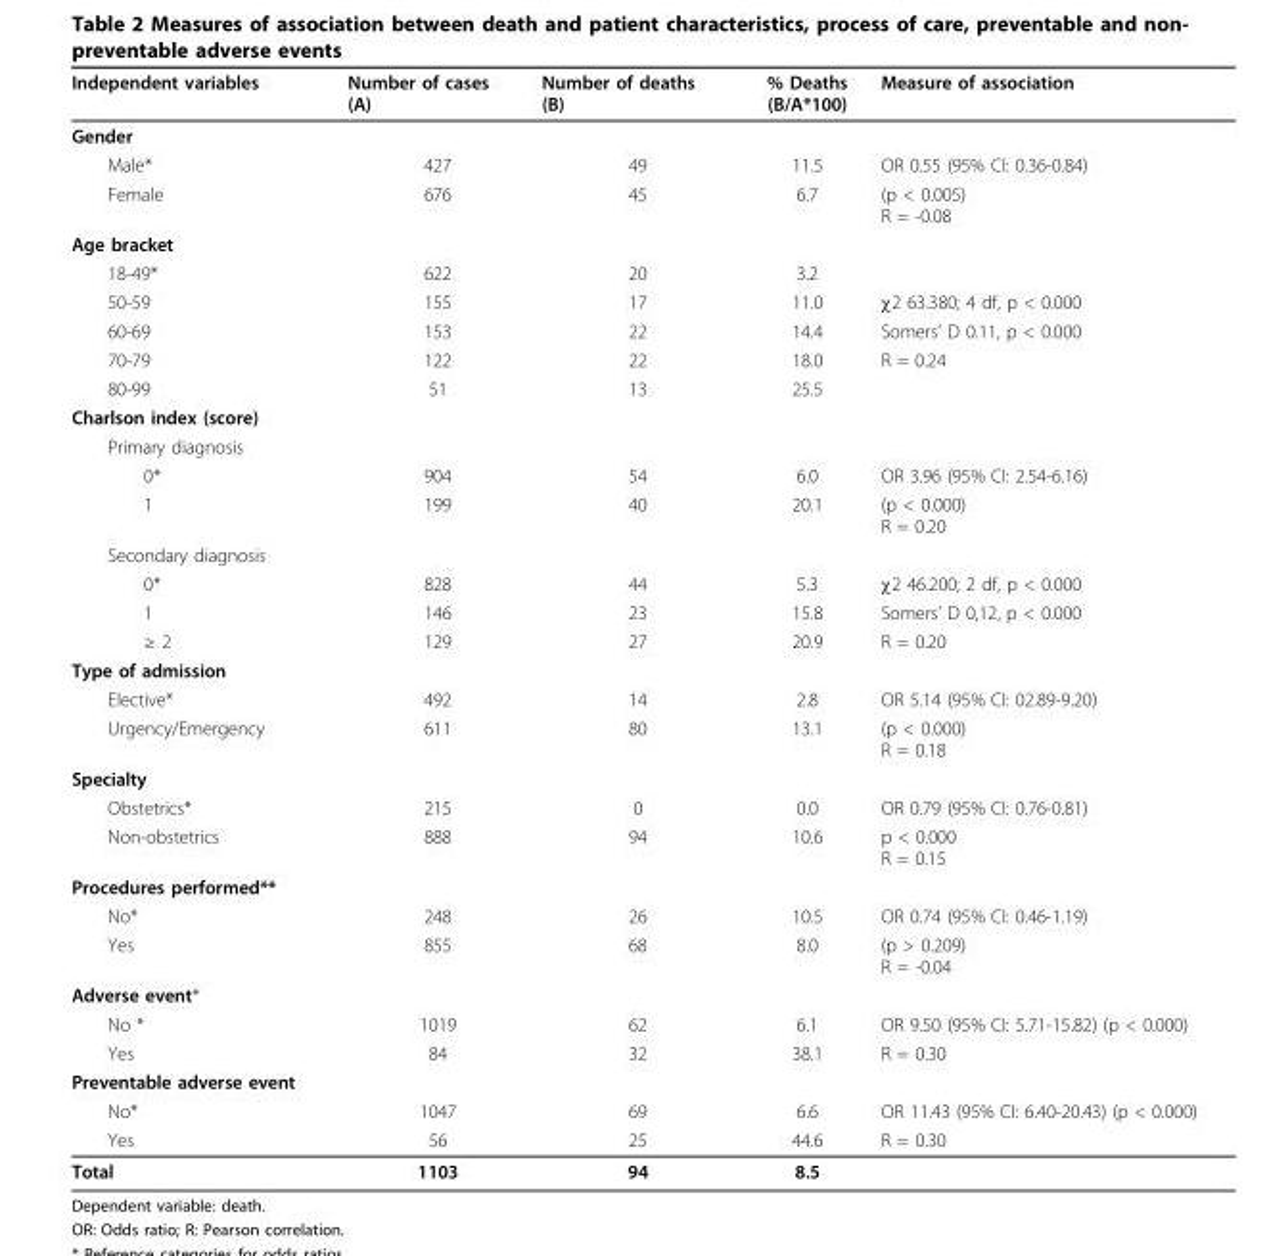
<table><thead><tr><td>Independent variables</td><td>Number of cases (A)</td><td>Number of deaths (B)</td><td>% Deaths (B/A*100)</td><td>Measure of association</td></tr></thead><tbody><tr><td colspan="5">Gender</td></tr><tr><td>Male*</td><td>427</td><td>49</td><td>11.5</td><td>OR 0.55 (95% CI: 0.36-0.84)</td></tr><tr><td>Female</td><td>676</td><td>45</td><td>6.7</td><td>(p &lt; 0.005) R = -0.08</td></tr><tr><td colspan="5">Age bracket</td></tr><tr><td>18-49*</td><td>622</td><td>20</td><td>3.2</td><td></td></tr><tr><td>50-59</td><td>155</td><td>17</td><td>11.0</td><td>χ2 63.380; 4 df, p &lt; 0.000</td></tr><tr><td>60-69</td><td>153</td><td>22</td><td>14.4</td><td>Somers’ D 0.11, p &lt; 0.000</td></tr><tr><td>70-79</td><td>122</td><td>22</td><td>18.0</td><td>R = 0.24</td></tr><tr><td>80-99</td><td>51</td><td>13</td><td>25.5</td><td></td></tr><tr><td colspan="5">Charlson index (score)</td></tr><tr><td colspan="5">Primary diagnosis</td></tr><tr><td>0*</td><td>904</td><td>54</td><td>6.0</td><td>OR 3.96 (95% CI: 2.54-6.16)</td></tr><tr><td>1</td><td>199</td><td>40</td><td>20.1</td><td>(p &lt; 0.000) R = 0.20</td></tr><tr><td colspan="5">Secondary diagnosis</td></tr><tr><td>0*</td><td>828</td><td>44</td><td>5.3</td><td>χ2 46.200; 2 df, p &lt; 0.000</td></tr><tr><td>1</td><td>146</td><td>23</td><td>15.8</td><td>Somers’ D 0,12, p &lt; 0.000</td></tr><tr><td>≥ 2</td><td>129</td><td>27</td><td>20.9</td><td>R = 0.20</td></tr><tr><td colspan="5">Type of admission</td></tr><tr><td>Elective*</td><td>492</td><td>14</td><td>2.8</td><td>OR 5.14 (95% CI: 02.89-9.20)</td></tr><tr><td>Urgency/Emergency</td><td>611</td><td>80</td><td>13.1</td><td>(p &lt; 0.000) R = 0.18</td></tr><tr><td colspan="5">Specialty</td></tr><tr><td>Obstetrics*</td><td>215</td><td>0</td><td>0.0</td><td>OR 0.79 (95% CI: 0.76-0.81)</td></tr><tr><td>Non-obstetrics</td><td>888</td><td>94</td><td>10.6</td><td>p &lt; 0.000 R = 0.15</td></tr><tr><td colspan="5">Procedures performed**</td></tr><tr><td>No*</td><td>248</td><td>26</td><td>10.5</td><td>OR 0.74 (95% CI: 0.46-1.19)</td></tr><tr><td>Yes</td><td>855</td><td>68</td><td>8.0</td><td>(p &gt; 0.209) R = -0.04</td></tr><tr><td colspan="5">Adverse event*</td></tr><tr><td>No *</td><td>1019</td><td>62</td><td>6.1</td><td>OR 9.50 (95% CI: 5.71-15.82) (p &lt; 0.000)</td></tr><tr><td>Yes</td><td>84</td><td>32</td><td>38.1</td><td>R = 0.30</td></tr><tr><td colspan="5">Preventable adverse event</td></tr><tr><td>No*</td><td>1047</td><td>69</td><td>6.6</td><td>OR 11.43 (95% CI: 6.40-20.43) (p &lt; 0.000)</td></tr><tr><td>Yes</td><td>56</td><td>25</td><td>44.6</td><td>R = 0.30</td></tr><tr><td>Total</td><td>1103</td><td>94</td><td>8.5</td><td></td></tr></tbody></table>